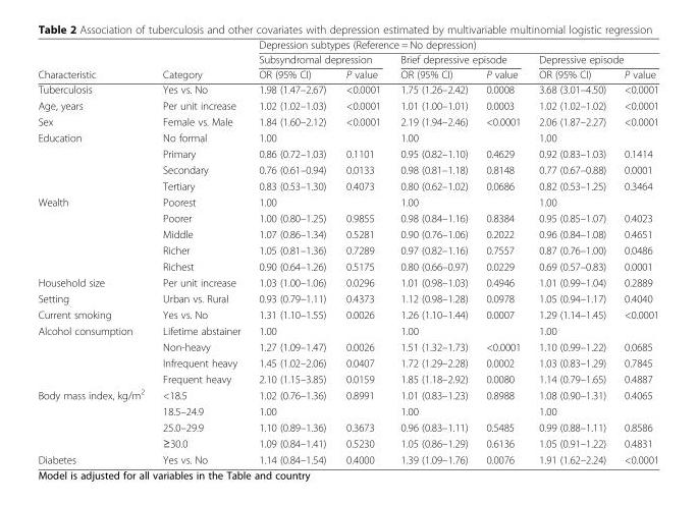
<table><thead><tr><td rowspan="3">Characteristic</td><td rowspan="3">Category</td><td colspan="6">Depression subtypes (Reference = No depression)</td></tr><tr><td colspan="2">Subsyndromal depression</td><td colspan="2">Brief depressive episode</td><td colspan="2">Depressive episode</td></tr><tr><td>OR (95% CI)</td><td>P value</td><td>OR (95% CI)</td><td>P value</td><td>OR (95% CI)</td><td>P value</td></tr></thead><tbody><tr><td>Tuberculosis</td><td>Yes vs. No</td><td>1.98 (1.47–2.67)</td><td>&lt;0.0001</td><td>1.75 (1.26–2.42)</td><td>0.0008</td><td>3.68 (3.01–4.50)</td><td>&lt;0.0001</td></tr><tr><td>Age, years</td><td>Per unit increase</td><td>1.02 (1.02–1.03)</td><td>&lt;0.0001</td><td>1.01 (1.00–1.01)</td><td>0.0003</td><td>1.02 (1.02–1.02)</td><td>&lt;0.0001</td></tr><tr><td>Sex</td><td>Female vs. Male</td><td>1.84 (1.60–2.12)</td><td>&lt;0.0001</td><td>2.19 (1.94–2.46)</td><td>&lt;0.0001</td><td>2.06 (1.87–2.27)</td><td>&lt;0.0001</td></tr><tr><td rowspan="4">Education</td><td>No formal</td><td>1.00</td><td></td><td>1.00</td><td></td><td>1.00</td><td></td></tr><tr><td>Primary</td><td>0.86 (0.72–1.03)</td><td>0.1101</td><td>0.95 (0.82–1.10)</td><td>0.4629</td><td>0.92 (0.83–1.03)</td><td>0.1414</td></tr><tr><td>Secondary</td><td>0.76 (0.61–0.94)</td><td>0.0133</td><td>0.98 (0.81–1.18)</td><td>0.8148</td><td>0.77 (0.67–0.88)</td><td>0.0001</td></tr><tr><td>Tertiary</td><td>0.83 (0.53–1.30)</td><td>0.4073</td><td>0.80 (0.62–1.02)</td><td>0.0686</td><td>0.82 (0.53–1.25)</td><td>0.3464</td></tr><tr><td rowspan="5">Wealth</td><td>Poorest</td><td>1.00</td><td></td><td>1.00</td><td></td><td>1.00</td><td></td></tr><tr><td>Poorer</td><td>1.00 (0.80–1.25)</td><td>0.9855</td><td>0.98 (0.84–1.16)</td><td>0.8384</td><td>0.95 (0.85–1.07)</td><td>0.4023</td></tr><tr><td>Middle</td><td>1.07 (0.86–1.34)</td><td>0.5281</td><td>0.90 (0.76–1.06)</td><td>0.2022</td><td>0.96 (0.84–1.08)</td><td>0.4651</td></tr><tr><td>Richer</td><td>1.05 (0.81–1.36)</td><td>0.7289</td><td>0.97 (0.82–1.16)</td><td>0.7557</td><td>0.87 (0.76–1.00)</td><td>0.0486</td></tr><tr><td>Richest</td><td>0.90 (0.64–1.26)</td><td>0.5175</td><td>0.80 (0.66–0.97)</td><td>0.0229</td><td>0.69 (0.57–0.83)</td><td>0.0001</td></tr><tr><td>Household size</td><td>Per unit increase</td><td>1.03 (1.00–1.06)</td><td>0.0296</td><td>1.01 (0.98–1.03)</td><td>0.4946</td><td>1.01 (0.99–1.04)</td><td>0.2889</td></tr><tr><td>Setting</td><td>Urban vs. Rural</td><td>0.93 (0.79–1.11)</td><td>0.4373</td><td>1.12 (0.98–1.28)</td><td>0.0978</td><td>1.05 (0.94–1.17)</td><td>0.4040</td></tr><tr><td>Current smoking</td><td>Yes vs. No</td><td>1.31 (1.10–1.55)</td><td>0.0026</td><td>1.26 (1.10–1.44)</td><td>0.0007</td><td>1.29 (1.14–1.45)</td><td>&lt;0.0001</td></tr><tr><td rowspan="4">Alcohol consumption</td><td>Lifetime abstainer</td><td>1.00</td><td></td><td>1.00</td><td></td><td>1.00</td><td></td></tr><tr><td>Non-heavy</td><td>1.27 (1.09–1.47)</td><td>0.0026</td><td>1.51 (1.32–1.73)</td><td>&lt;0.0001</td><td>1.10 (0.99–1.22)</td><td>0.0685</td></tr><tr><td>Infrequent heavy</td><td>1.45 (1.02–2.06)</td><td>0.0407</td><td>1.72 (1.29–2.28)</td><td>0.0002</td><td>1.03 (0.83–1.29)</td><td>0.7845</td></tr><tr><td>Frequent heavy</td><td>2.10 (1.15–3.85)</td><td>0.0159</td><td>1.85 (1.18–2.92)</td><td>0.0080</td><td>1.14 (0.79–1.65)</td><td>0.4887</td></tr><tr><td rowspan="4">Body mass index, kg/m<sup>2</sup></td><td>&lt;18.5</td><td>1.02 (0.76–1.36)</td><td>0.8991</td><td>1.01 (0.83–1.23)</td><td>0.8988</td><td>1.08 (0.90–1.31)</td><td>0.4065</td></tr><tr><td>18.5–24.9</td><td>1.00</td><td></td><td>1.00</td><td></td><td>1.00</td><td></td></tr><tr><td>25.0–29.9</td><td>1.10 (0.89–1.36)</td><td>0.3673</td><td>0.96 (0.83–1.11)</td><td>0.5485</td><td>0.99 (0.88–1.11)</td><td>0.8586</td></tr><tr><td>≥30.0</td><td>1.09 (0.84–1.41)</td><td>0.5230</td><td>1.05 (0.86–1.29)</td><td>0.6136</td><td>1.05 (0.91–1.22)</td><td>0.4831</td></tr><tr><td>Diabetes</td><td>Yes vs. No</td><td>1.14 (0.84–1.54)</td><td>0.4000</td><td>1.39 (1.09–1.76)</td><td>0.0076</td><td>1.91 (1.62–2.24)</td><td>&lt;0.0001</td></tr></tbody></table>